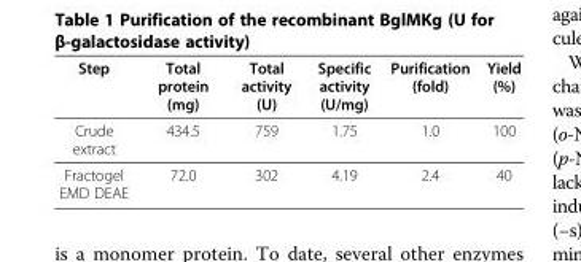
<table><thead><tr><td>Step</td><td>Total protein (mg)</td><td>Total activity (U)</td><td>Specific activity (U/mg)</td><td>Purification (fold)</td><td>Yield (%)</td></tr></thead><tbody><tr><td>Crude extract</td><td>434.5</td><td>759</td><td>1.75</td><td>1.0</td><td>100</td></tr><tr><td>Fractogel EMD DEAE</td><td>72.0</td><td>302</td><td>4.19</td><td>2.4</td><td>40</td></tr></tbody></table>